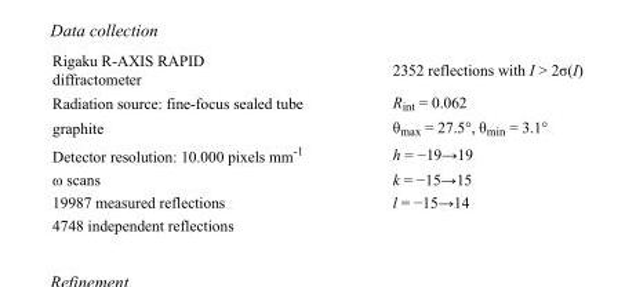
<table><tbody><tr><td>Rigaku R-AXIS RAPID diffractometer</td><td>2352 reflections with I &gt; 2σ(I)</td></tr><tr><td>Radiation source: fine-focus sealed tube</td><td>R<sub>int</sub> = 0.062</td></tr><tr><td>graphite</td><td>θ<sub>max</sub> = 27.5°, θ<sub>min</sub> = 3.1°</td></tr><tr><td>Detector resolution: 10.000 pixels mm<sup>-1</sup></td><td>h = −19→19</td></tr><tr><td>ω scans</td><td>k = −15→15</td></tr><tr><td>19987 measured reflections</td><td>l = −15→14</td></tr><tr><td>4748 independent reflections</td><td></td></tr></tbody></table>